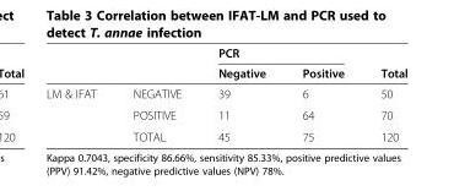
<table><thead><tr><td rowspan="2"></td><td rowspan="2"></td><td colspan="2">PCR</td><td rowspan="2">Total</td></tr><tr><td>Negative</td><td>Positive</td></tr></thead><tbody><tr><td rowspan="3">LM &amp; IFAT</td><td>NEGATIVE</td><td>39</td><td>6</td><td>50</td></tr><tr><td>POSITIVE</td><td>11</td><td>64</td><td>70</td></tr><tr><td>TOTAL</td><td>45</td><td>75</td><td>120</td></tr></tbody></table>